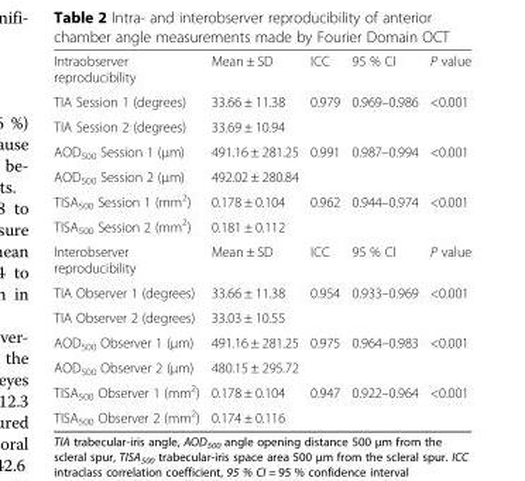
<table><tbody><tr><td>Intraobserver reproducibility</td><td>Mean ± SD</td><td>ICC</td><td>95 % CI</td><td>P value</td></tr><tr><td>TIA Session 1 (degrees)</td><td>33.66 ± 11.38</td><td rowspan="2">0.979</td><td rowspan="2">0.969–0.986</td><td rowspan="2">&lt;0.001</td></tr><tr><td>TIA Session 2 (degrees)</td><td>33.69 ± 10.94</td></tr><tr><td>AOD<sub>500</sub> Session 1 (μm)</td><td>491.16 ± 281.25</td><td rowspan="2">0.991</td><td rowspan="2">0.987–0.994</td><td rowspan="2">&lt;0.001</td></tr><tr><td>AOD<sub>500</sub> Session 2 (μm)</td><td>492.02 ± 280.84</td></tr><tr><td>TISA<sub>500</sub> Session 1 (mm<sup>2</sup>)</td><td>0.178 ± 0.104</td><td rowspan="2">0.962</td><td rowspan="2">0.944–0.974</td><td rowspan="2">&lt;0.001</td></tr><tr><td>TISA<sub>500</sub> Session 2 (mm<sup>2</sup>)</td><td>0.181 ± 0.112</td></tr><tr><td>Interobserver reproducibility</td><td>Mean ± SD</td><td>ICC</td><td>95 % CI</td><td>P value</td></tr><tr><td>TIA Observer 1 (degrees)</td><td>33.66 ± 11.38</td><td rowspan="2">0.954</td><td rowspan="2">0.933–0.969</td><td rowspan="2">&lt;0.001</td></tr><tr><td>TIA Observer 2 (degrees)</td><td>33.03 ± 10.55</td></tr><tr><td>AOD<sub>500</sub> Observer 1 (μm)</td><td>491.16 ± 281.25</td><td rowspan="2">0.975</td><td rowspan="2">0.964–0.983</td><td rowspan="2">&lt;0.001</td></tr><tr><td>AOD<sub>500</sub> Observer 2 (μm)</td><td>480.15 ± 295.72</td></tr><tr><td>TISA<sub>500</sub> Observer 1 (mm<sup>2</sup>)</td><td>0.178 ± 0.104</td><td rowspan="2">0.947</td><td rowspan="2">0.922–0.964</td><td rowspan="2">&lt;0.001</td></tr><tr><td>TISA<sub>500</sub> Observer 2 (mm<sup>2</sup>)</td><td>0.174 ± 0.116</td></tr></tbody></table>